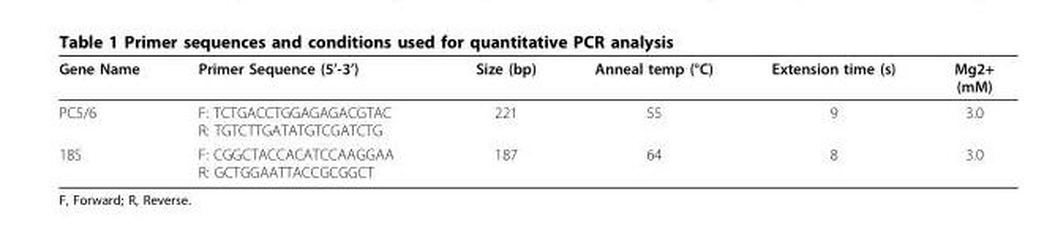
<table><thead><tr><td>Gene Name</td><td>Primer Sequence (5’-3’)</td><td>Size (bp)</td><td>Anneal temp (°C)</td><td>Extension time (s)</td><td>Mg2+ (mM)</td></tr></thead><tbody><tr><td>PC5/6</td><td>F: TCTGACCTGGAGAGACGTAC R: TGTCTTGATATGTCGATCTG</td><td>221</td><td>55</td><td>9</td><td>3.0</td></tr><tr><td>18S</td><td>F: CGGCTACCACATCCAAGGAA R: GCTGGAATTACCGCGGCT</td><td>187</td><td>64</td><td>8</td><td>3.0</td></tr></tbody></table>